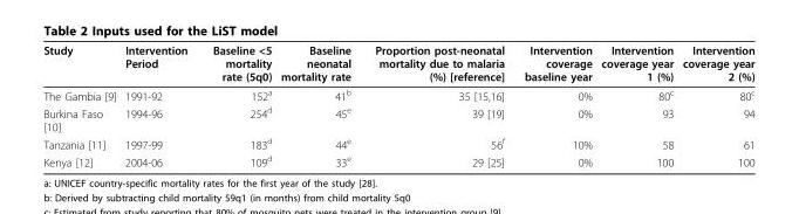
<table><thead><tr><td>Study</td><td>Intervention Period</td><td>Baseline &lt;5 mortality rate (5q0)</td><td>Baseline neonatal mortality rate</td><td>Proportion post-neonatal mortality due to malaria (%) [reference]</td><td>Intervention coverage baseline year</td><td>Intervention coverage year 1 (%)</td><td>Intervention coverage year 2 (%)</td></tr></thead><tbody><tr><td>The Gambia [9]</td><td>1991-92</td><td>152<sup>a</sup></td><td>41<sup>b</sup></td><td>35 [15,16]</td><td>0%</td><td>80<sup>c</sup></td><td>80<sup>c</sup></td></tr><tr><td>Burkina Faso [10]</td><td>1994-96</td><td>254<sup>d</sup></td><td>45<sup>e</sup></td><td>39 [19]</td><td>0%</td><td>93</td><td>94</td></tr><tr><td>Tanzania [11]</td><td>1997-99</td><td>183<sup>d</sup></td><td>44<sup>e</sup></td><td>56<sup>f</sup></td><td>10%</td><td>58</td><td>61</td></tr><tr><td>Kenya [12]</td><td>2004-06</td><td>109<sup>d</sup></td><td>33<sup>e</sup></td><td>29 [25]</td><td>0%</td><td>100</td><td>100</td></tr></tbody></table>